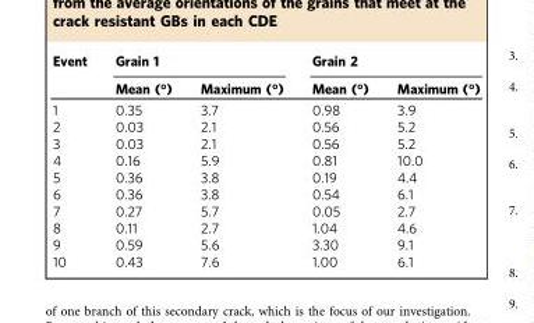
<table><thead><tr><td rowspan="2">Event</td><td colspan="2">Grain 1</td><td colspan="2">Grain 2</td></tr><tr><td>Mean (°)</td><td>Maximum (°)</td><td>Mean (°)</td><td>Maximum (°)</td></tr></thead><tbody><tr><td>1</td><td>0.35</td><td>3.7</td><td>0.98</td><td>3.9</td></tr><tr><td>2</td><td>0.03</td><td>2.1</td><td>0.56</td><td>5.2</td></tr><tr><td>3</td><td>0.03</td><td>2.1</td><td>0.56</td><td>5.2</td></tr><tr><td>4</td><td>0.16</td><td>5.9</td><td>0.81</td><td>10.0</td></tr><tr><td>5</td><td>0.36</td><td>3.8</td><td>0.19</td><td>4.4</td></tr><tr><td>6</td><td>0.36</td><td>3.8</td><td>0.54</td><td>6.1</td></tr><tr><td>7</td><td>0.27</td><td>5.7</td><td>0.05</td><td>2.7</td></tr><tr><td>8</td><td>0.11</td><td>2.7</td><td>1.04</td><td>4.6</td></tr><tr><td>9</td><td>0.59</td><td>5.6</td><td>3.30</td><td>9.1</td></tr><tr><td>10</td><td>0.43</td><td>7.6</td><td>1.00</td><td>6.1</td></tr></tbody></table>